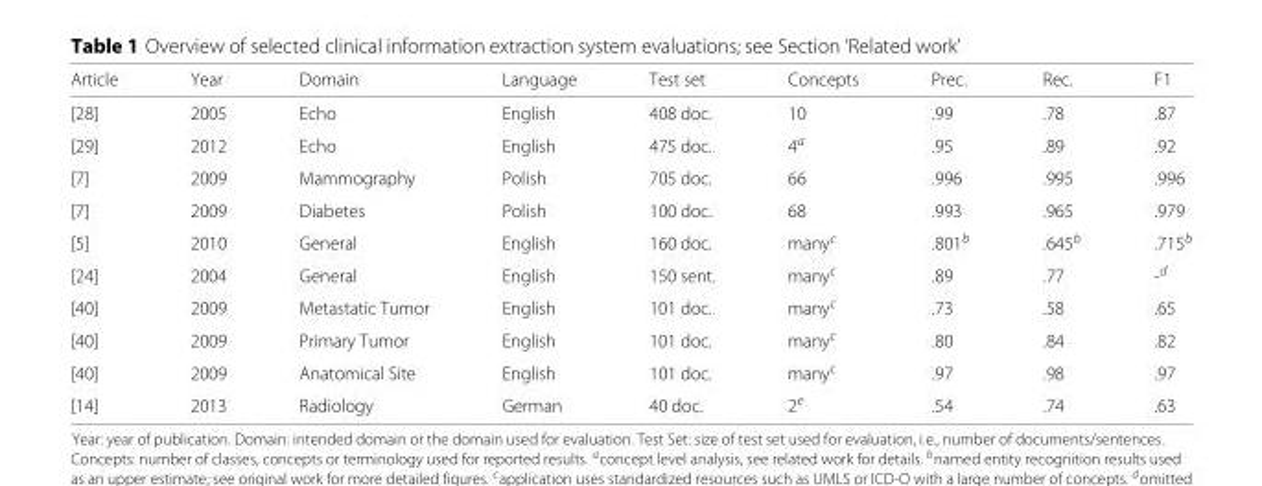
<table><thead><tr><td>Article</td><td>Year</td><td>Domain</td><td>Language</td><td>Test set</td><td>Concepts</td><td>Prec.</td><td>Rec.</td><td>F1</td></tr></thead><tbody><tr><td>[28]</td><td>2005</td><td>Echo</td><td>English</td><td>408 doc.</td><td>10</td><td>.99</td><td>.78</td><td>.87</td></tr><tr><td>[29]</td><td>2012</td><td>Echo</td><td>English</td><td>475 doc.</td><td>4<sup>a</sup></td><td>.95</td><td>.89</td><td>.92</td></tr><tr><td>[7]</td><td>2009</td><td>Mammography</td><td>Polish</td><td>705 doc.</td><td>66</td><td>.996</td><td>.995</td><td>.996</td></tr><tr><td>[7]</td><td>2009</td><td>Diabetes</td><td>Polish</td><td>100 doc.</td><td>68</td><td>.993</td><td>.965</td><td>.979</td></tr><tr><td>[5]</td><td>2010</td><td>General</td><td>English</td><td>160 doc.</td><td>many<sup>c</sup></td><td>.801<sup>b</sup></td><td>.645<sup>b</sup></td><td>.715<sup>b</sup></td></tr><tr><td>[24]</td><td>2004</td><td>General</td><td>English</td><td>150 sent.</td><td>many<sup>c</sup></td><td>.89</td><td>.77</td><td>-<sup>d</sup></td></tr><tr><td>[40]</td><td>2009</td><td>Metastatic Tumor</td><td>English</td><td>101 doc.</td><td>many<sup>c</sup></td><td>.73</td><td>.58</td><td>.65</td></tr><tr><td>[40]</td><td>2009</td><td>Primary Tumor</td><td>English</td><td>101 doc.</td><td>many<sup>c</sup></td><td>.80</td><td>.84</td><td>.82</td></tr><tr><td>[40]</td><td>2009</td><td>Anatomical Site</td><td>English</td><td>101 doc.</td><td>many<sup>c</sup></td><td>.97</td><td>.98</td><td>.97</td></tr><tr><td>[14]</td><td>2013</td><td>Radiology</td><td>German</td><td>40 doc.</td><td>2<sup>e</sup></td><td>.54</td><td>.74</td><td>.63</td></tr></tbody></table>